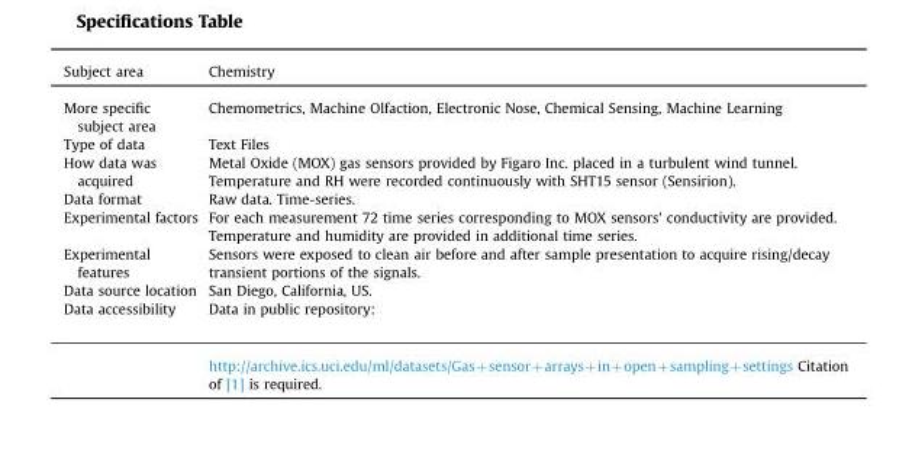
<table><thead><tr><td>Subject area</td><td>Chemistry</td></tr></thead><tbody><tr><td>More specific subject area</td><td>Chemometrics, Machine Olfaction, Electronic Nose, Chemical Sensing, Machine Learning</td></tr><tr><td>Type of data</td><td>Text Files</td></tr><tr><td>How data was acquired</td><td>Metal Oxide (MOX) gas sensors provided by Figaro Inc. placed in a turbulent wind tunnel. Temperature and RH were recorded continuously with SHT15 sensor (Sensirion).</td></tr><tr><td>Data format</td><td>Raw data. Time-series.</td></tr><tr><td>Experimental factors</td><td>For each measurement 72 time series corresponding to MOX sensors&#x27; conductivity are provided. Temperature and humidity are provided in additional time series.</td></tr><tr><td>Experimental features</td><td>Sensors were exposed to clean air before and after sample presentation to acquire rising/decay transient portions of the signals.</td></tr><tr><td>Data source location</td><td>San Diego, California, US.</td></tr><tr><td rowspan="2">Data accessibility</td><td>Data in public repository:</td></tr><tr><td>http://archive.ics.uci.edu/ml/datasets/Gas+sensor+arrays+in+open+sampling+settings Citation of [1] is required.</td></tr></tbody></table>